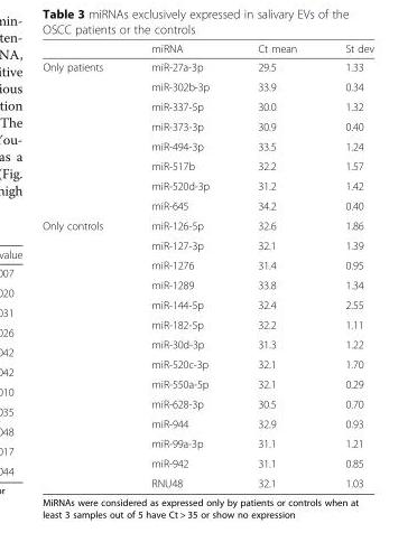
<table><thead><tr><td></td><td>miRNA</td><td>Ct mean</td><td>St dev</td></tr></thead><tbody><tr><td rowspan="8">Only patients</td><td>miR-27a-3p</td><td>29.5</td><td>1.33</td></tr><tr><td>miR-302b-3p</td><td>33.9</td><td>0.34</td></tr><tr><td>miR-337-5p</td><td>30.0</td><td>1.32</td></tr><tr><td>miR-373-3p</td><td>30.9</td><td>0.40</td></tr><tr><td>miR-494-3p</td><td>33.5</td><td>1.24</td></tr><tr><td>miR-517b</td><td>32.2</td><td>1.57</td></tr><tr><td>miR-520d-3p</td><td>31.2</td><td>1.42</td></tr><tr><td>miR-645</td><td>34.2</td><td>0.40</td></tr><tr><td rowspan="14">Only controls</td><td>miR-126-5p</td><td>32.6</td><td>1.86</td></tr><tr><td>miR-127-3p</td><td>32.1</td><td>1.39</td></tr><tr><td>miR-1276</td><td>31.4</td><td>0.95</td></tr><tr><td>miR-1289</td><td>33.8</td><td>1.34</td></tr><tr><td>miR-144-5p</td><td>32.4</td><td>2.55</td></tr><tr><td>miR-182-5p</td><td>32.2</td><td>1.11</td></tr><tr><td>miR-30d-3p</td><td>31.3</td><td>1.22</td></tr><tr><td>miR-520c-3p</td><td>32.1</td><td>1.70</td></tr><tr><td>miR-550a-5p</td><td>32.1</td><td>0.29</td></tr><tr><td>miR-628-3p</td><td>30.5</td><td>0.70</td></tr><tr><td>miR-944</td><td>32.9</td><td>0.93</td></tr><tr><td>miR-99a-3p</td><td>31.1</td><td>1.21</td></tr><tr><td>miR-942</td><td>31.1</td><td>0.85</td></tr><tr><td>RNU48</td><td>32.1</td><td>1.03</td></tr></tbody></table>